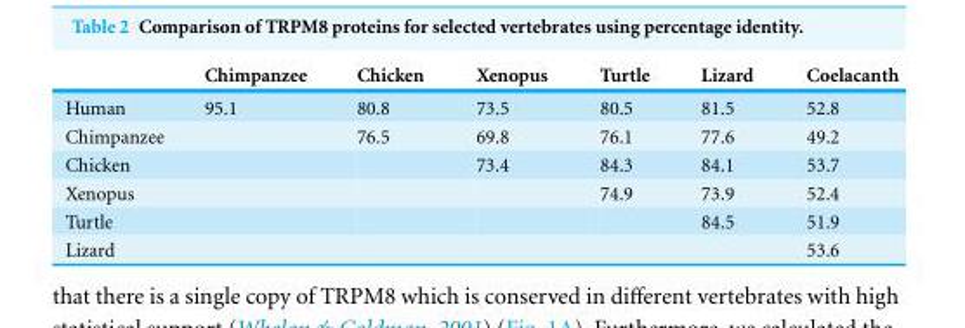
<table><thead><tr><td></td><td>Chimpanzee</td><td>Chicken</td><td>Xenopus</td><td>Turtle</td><td>Lizard</td><td>Coelacanth</td></tr></thead><tbody><tr><td>Human</td><td>95.1</td><td>80.8</td><td>73.5</td><td>80.5</td><td>81.5</td><td>52.8</td></tr><tr><td>Chimpanzee</td><td></td><td>76.5</td><td>69.8</td><td>76.1</td><td>77.6</td><td>49.2</td></tr><tr><td>Chicken</td><td></td><td></td><td>73.4</td><td>84.3</td><td>84.1</td><td>53.7</td></tr><tr><td>Xenopus</td><td></td><td></td><td></td><td>74.9</td><td>73.9</td><td>52.4</td></tr><tr><td>Turtle</td><td></td><td></td><td></td><td></td><td>84.5</td><td>51.9</td></tr><tr><td>Lizard</td><td></td><td></td><td></td><td></td><td></td><td>53.6</td></tr></tbody></table>